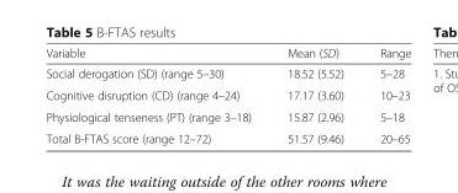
<table><thead><tr><td>Variable</td><td>Mean (SD)</td><td>Range</td></tr></thead><tbody><tr><td>Social derogation (SD) (range 5–30)</td><td>18.52 (5.52)</td><td>5–28</td></tr><tr><td>Cognitive disruption (CD) (range 4–24)</td><td>17.17 (3.60)</td><td>10–23</td></tr><tr><td>Physiological tenseness (PT) (range 3–18)</td><td>15.87 (2.96)</td><td>5–18</td></tr><tr><td>Total B-FTAS score (range 12–72)</td><td>51.57 (9.46)</td><td>20–65</td></tr></tbody></table>